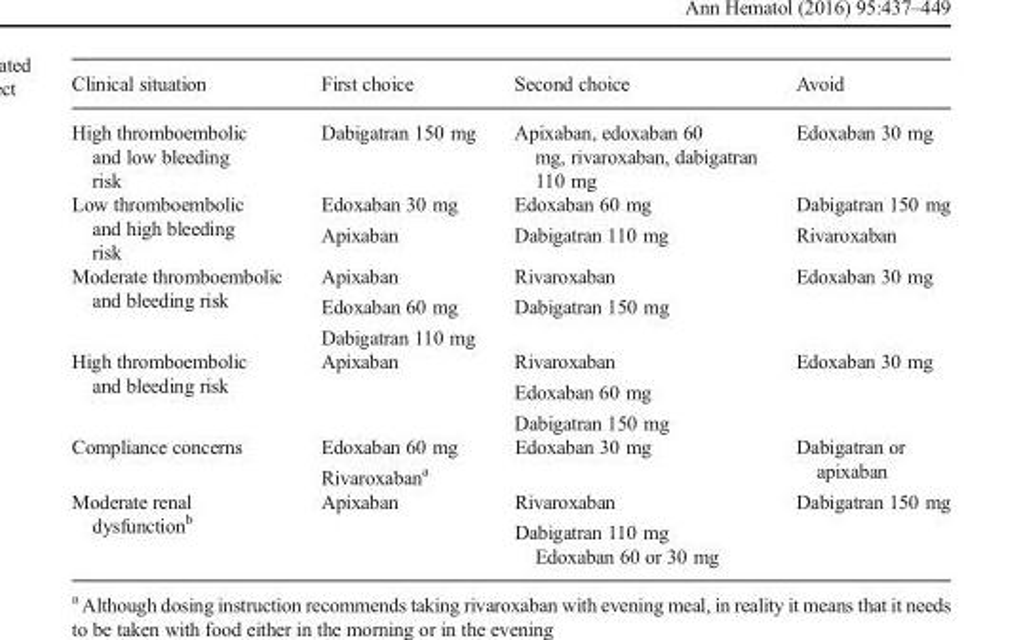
<table><thead><tr><td>Clinical situation</td><td>First choice</td><td>Second choice</td><td>Avoid</td></tr></thead><tbody><tr><td>High thromboembolic and low bleeding risk</td><td>Dabigatran 150 mg</td><td>Apixaban, edoxaban 60 mg, rivaroxaban, dabigatran 110 mg</td><td>Edoxaban 30 mg</td></tr><tr><td>Low thromboembolic and high bleeding risk</td><td>Edoxaban 30 mg Apixaban</td><td>Edoxaban 60 mg Dabigatran 110 mg</td><td>Dabigatran 150 mg Rivaroxaban</td></tr><tr><td>Moderate thromboembolic and bleeding risk</td><td>Apixaban Edoxaban 60 mg Dabigatran 110 mg</td><td>Rivaroxaban Dabigatran 150 mg</td><td>Edoxaban 30 mg</td></tr><tr><td>High thromboembolic and bleeding risk</td><td>Apixaban</td><td>Rivaroxaban Edoxaban 60 mg Dabigatran 150 mg</td><td>Edoxaban 30 mg</td></tr><tr><td>Compliance concerns</td><td>Edoxaban 60 mg Rivaroxaban<sup>a</sup></td><td>Edoxaban 30 mg</td><td>Dabigatran or apixaban</td></tr><tr><td>Moderate renal dysfunction<sup>b</sup></td><td>Apixaban</td><td>Rivaroxaban Dabigatran 110 mg Edoxaban 60 or 30 mg</td><td>Dabigatran 150 mg</td></tr></tbody></table>